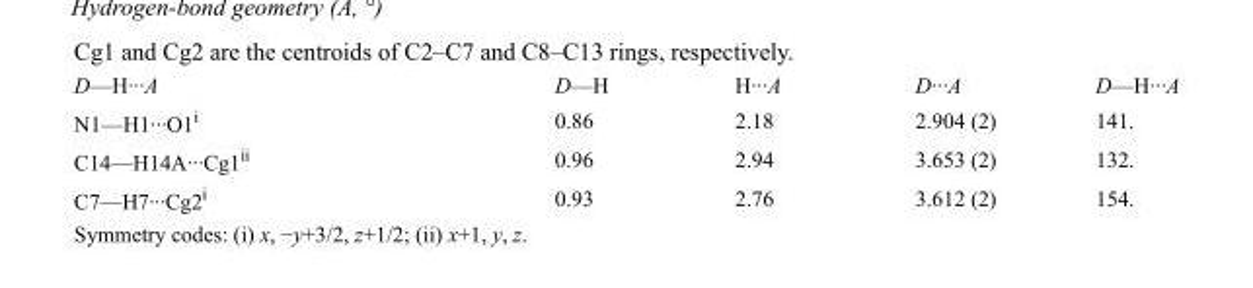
<table><tbody><tr><td>D—H···A</td><td>D—H</td><td>H···A</td><td>D···A</td><td>D—H···A</td></tr><tr><td>N1—H1···O1<sup>i</sup></td><td>0.86</td><td>2.18</td><td>2.904 (2)</td><td>141.</td></tr><tr><td>C14—H14A···Cg1<sup>ii</sup></td><td>0.96</td><td>2.94</td><td>3.653 (2)</td><td>132.</td></tr><tr><td>C7—H7···Cg2<sup>i</sup></td><td>0.93</td><td>2.76</td><td>3.612 (2)</td><td>154.</td></tr></tbody></table>